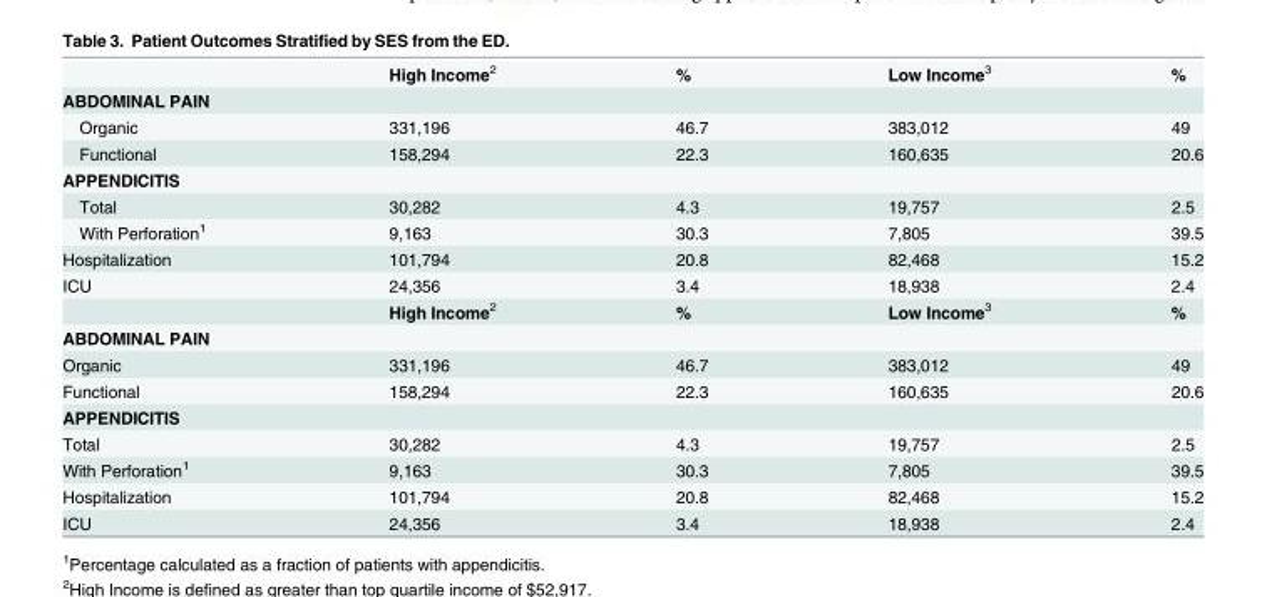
<table><thead><tr><td></td><td>High Income<sup>2</sup></td><td>%</td><td>Low Income<sup>3</sup></td><td>%</td></tr></thead><tbody><tr><td colspan="5">ABDOMINAL PAIN</td></tr><tr><td>Organic</td><td>331,196</td><td>46.7</td><td>383,012</td><td>49</td></tr><tr><td>Functional</td><td>158,294</td><td>22.3</td><td>160,635</td><td>20.6</td></tr><tr><td colspan="5">APPENDICITIS</td></tr><tr><td>Total</td><td>30,282</td><td>4.3</td><td>19,757</td><td>2.5</td></tr><tr><td>With Perforation<sup>1</sup></td><td>9,163</td><td>30.3</td><td>7,805</td><td>39.5</td></tr><tr><td>Hospitalization</td><td>101,794</td><td>20.8</td><td>82,468</td><td>15.2</td></tr><tr><td rowspan="2">ICU</td><td>24,356</td><td>3.4</td><td>18,938</td><td>2.4</td></tr><tr><td>High Income<sup>2</sup></td><td>%</td><td>Low Income<sup>3</sup></td><td>%</td></tr><tr><td colspan="5">ABDOMINAL PAIN</td></tr><tr><td>Organic</td><td>331,196</td><td>46.7</td><td>383,012</td><td>49</td></tr><tr><td>Functional</td><td>158,294</td><td>22.3</td><td>160,635</td><td>20.6</td></tr><tr><td colspan="5">APPENDICITIS</td></tr><tr><td>Total</td><td>30,282</td><td>4.3</td><td>19,757</td><td>2.5</td></tr><tr><td>With Perforation<sup>1</sup></td><td>9,163</td><td>30.3</td><td>7,805</td><td>39.5</td></tr><tr><td>Hospitalization</td><td>101,794</td><td>20.8</td><td>82,468</td><td>15.2</td></tr><tr><td>ICU</td><td>24,356</td><td>3.4</td><td>18,938</td><td>2.4</td></tr></tbody></table>